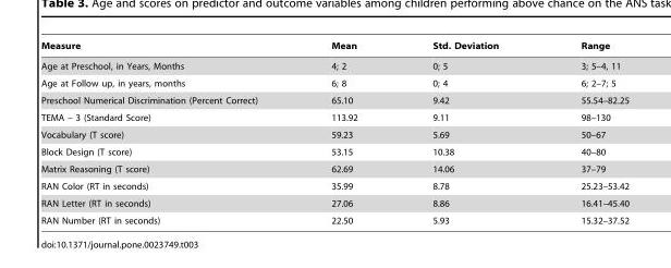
<table><thead><tr><td>Measure</td><td>Mean</td><td>Std. Deviation</td><td>Range</td></tr></thead><tbody><tr><td>Age at Preschool, in Years, Months</td><td>4; 2</td><td>0; 5</td><td>3; 5–4, 11</td></tr><tr><td>Age at Follow up, in years, months</td><td>6; 8</td><td>0; 4</td><td>6; 2–7; 5</td></tr><tr><td>Preschool Numerical Discrimination (Percent Correct)</td><td>65.10</td><td>9.42</td><td>55.54–82.25</td></tr><tr><td>TEMA – 3 (Standard Score)</td><td>113.92</td><td>9.11</td><td>98–130</td></tr><tr><td>Vocabulary (T score)</td><td>59.23</td><td>5.69</td><td>50–67</td></tr><tr><td>Block Design (T score)</td><td>53.15</td><td>10.38</td><td>40–80</td></tr><tr><td>Matrix Reasoning (T score)</td><td>62.69</td><td>14.06</td><td>37–79</td></tr><tr><td>RAN Color (RT in seconds)</td><td>35.99</td><td>8.78</td><td>25.23–53.42</td></tr><tr><td>RAN Letter (RT in seconds)</td><td>27.06</td><td>8.86</td><td>16.41–45.40</td></tr><tr><td>RAN Number (RT in seconds)</td><td>22.50</td><td>5.93</td><td>15.32–37.52</td></tr></tbody></table>